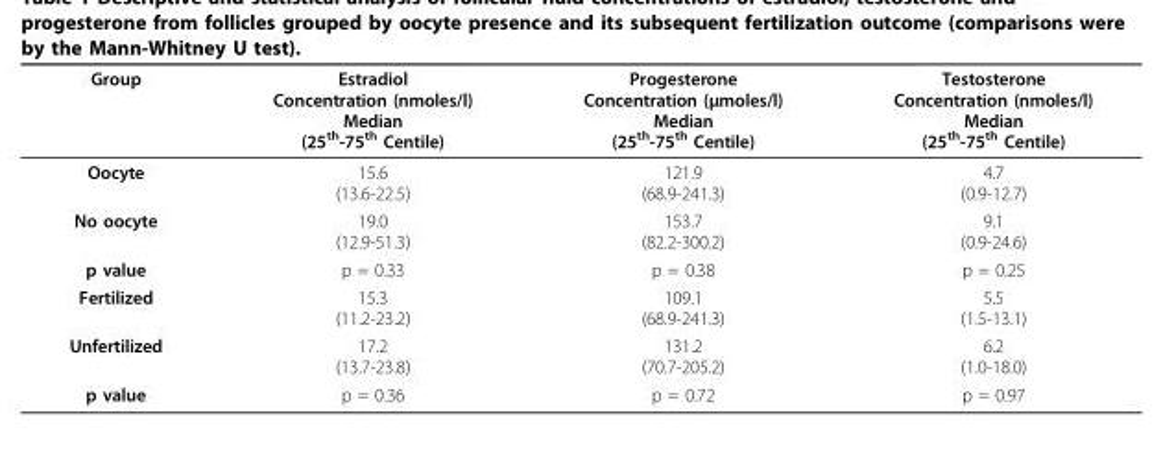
<table><thead><tr><td>Group</td><td>Estradiol Concentration (nmoles/l) Median (25<sup>th</sup>-75<sup>th</sup> Centile)</td><td>Progesterone Concentration (μmoles/l) Median (25<sup>th</sup>-75<sup>th</sup> Centile)</td><td>Testosterone Concentration (nmoles/l) Median (25<sup>th</sup>-75<sup>th</sup> Centile)</td></tr></thead><tbody><tr><td>Oocyte</td><td>15.6 (13.6-22.5)</td><td>121.9 (68.9-241.3)</td><td>4.7 (0.9-12.7)</td></tr><tr><td>No oocyte</td><td>19.0 (12.9-51.3)</td><td>153.7 (82.2-300.2)</td><td>9.1 (0.9-24.6)</td></tr><tr><td>p value</td><td>p = 0.33</td><td>p = 0.38</td><td>p = 0.25</td></tr><tr><td>Fertilized</td><td>15.3 (11.2-23.2)</td><td>109.1 (68.9-241.3)</td><td>5.5 (1.5-13.1)</td></tr><tr><td>Unfertilized</td><td>17.2 (13.7-23.8)</td><td>131.2 (70.7-205.2)</td><td>6.2 (1.0-18.0)</td></tr><tr><td>p value</td><td>p = 0.36</td><td>p = 0.72</td><td>p = 0.97</td></tr></tbody></table>